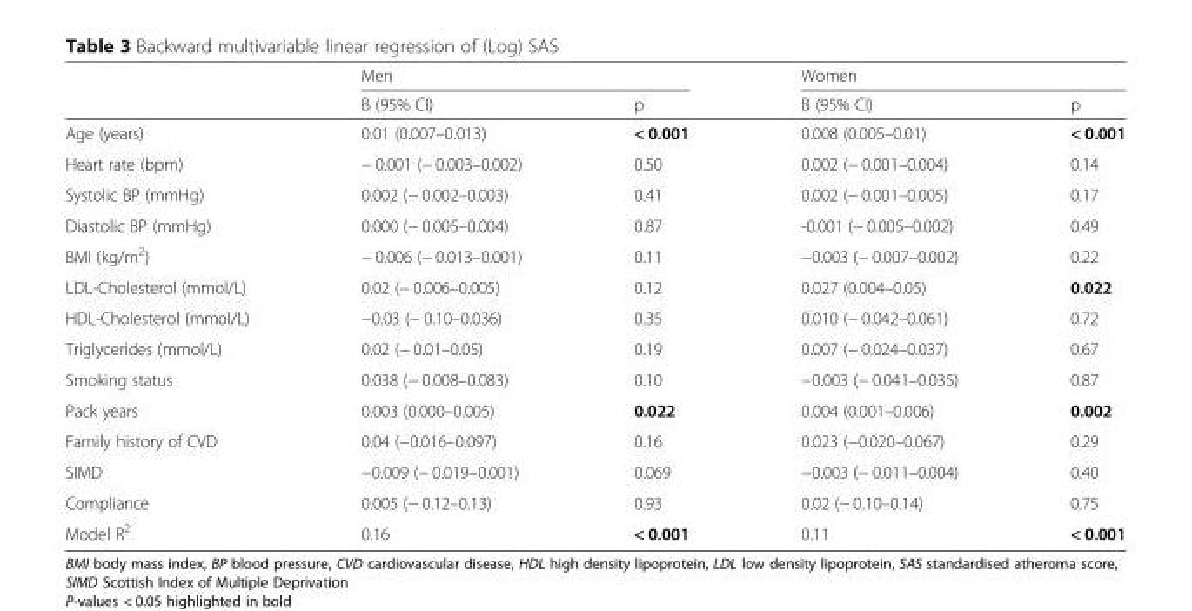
<table><thead><tr><td rowspan="2"></td><td colspan="2">Men</td><td colspan="2">Women</td></tr><tr><td>B (95% CI)</td><td>p</td><td>B (95% CI)</td><td>p</td></tr></thead><tbody><tr><td>Age (years)</td><td>0.01 (0.007–0.013)</td><td>&lt; 0.001</td><td>0.008 (0.005–0.01)</td><td>&lt; 0.001</td></tr><tr><td>Heart rate (bpm)</td><td>− 0.001 (− 0.003–0.002)</td><td>0.50</td><td>0.002 (− 0.001–0.004)</td><td>0.14</td></tr><tr><td>Systolic BP (mmHg)</td><td>0.002 (− 0.002–0.003)</td><td>0.41</td><td>0.002 (− 0.001–0.005)</td><td>0.17</td></tr><tr><td>Diastolic BP (mmHg)</td><td>0.000 (− 0.005–0.004)</td><td>0.87</td><td>-0.001 (− 0.005–0.002)</td><td>0.49</td></tr><tr><td>BMI (kg/m<sup>2</sup>)</td><td>− 0.006 (− 0.013–0.001)</td><td>0.11</td><td>−0.003 (− 0.007–0.002)</td><td>0.22</td></tr><tr><td>LDL-Cholesterol (mmol/L)</td><td>0.02 (− 0.006–0.005)</td><td>0.12</td><td>0.027 (0.004–0.05)</td><td>0.022</td></tr><tr><td>HDL-Cholesterol (mmol/L)</td><td>−0.03 (− 0.10–0.036)</td><td>0.35</td><td>0.010 (− 0.042–0.061)</td><td>0.72</td></tr><tr><td>Triglycerides (mmol/L)</td><td>0.02 (− 0.01–0.05)</td><td>0.19</td><td>0.007 (− 0.024–0.037)</td><td>0.67</td></tr><tr><td>Smoking status</td><td>0.038 (− 0.008–0.083)</td><td>0.10</td><td>−0.003 (− 0.041–0.035)</td><td>0.87</td></tr><tr><td>Pack years</td><td>0.003 (0.000–0.005)</td><td>0.022</td><td>0.004 (0.001–0.006)</td><td>0.002</td></tr><tr><td>Family history of CVD</td><td>0.04 (−0.016–0.097)</td><td>0.16</td><td>0.023 (−0.020–0.067)</td><td>0.29</td></tr><tr><td>SIMD</td><td>−0.009 (− 0.019–0.001)</td><td>0.069</td><td>−0.003 (− 0.011–0.004)</td><td>0.40</td></tr><tr><td>Compliance</td><td>0.005 (− 0.12–0.13)</td><td>0.93</td><td>0.02 (− 0.10–0.14)</td><td>0.75</td></tr><tr><td>Model R<sup>2</sup></td><td>0.16</td><td>&lt; 0.001</td><td>0.11</td><td>&lt; 0.001</td></tr></tbody></table>